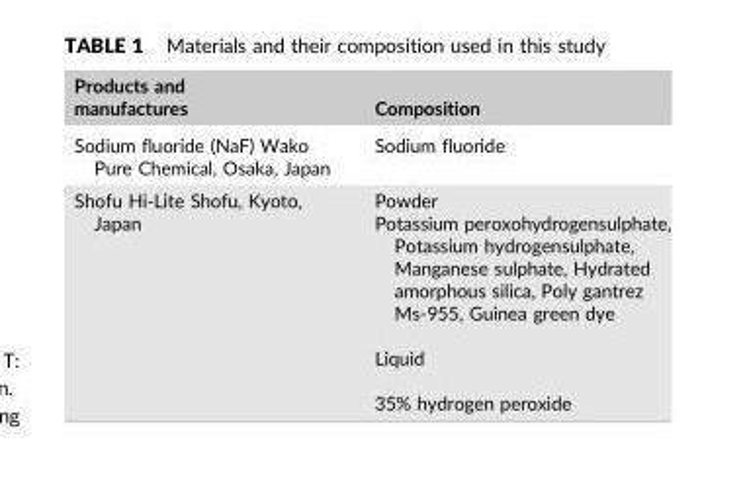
<table><thead><tr><td>Products and manufactures</td><td>Composition</td></tr></thead><tbody><tr><td>Sodium fluoride (NaF) Wako Pure Chemical, Osaka, Japan</td><td>Sodium fluoride</td></tr><tr><td>Shofu Hi‐Lite Shofu, Kyoto, Japan</td><td>Powder Potassium peroxohydrogensulphate, Potassium hydrogensulphate, Manganese sulphate, Hydrated amorphous silica, Poly gantrez Ms‐955, Guinea green dye Liquid 35% hydrogen peroxide</td></tr></tbody></table>